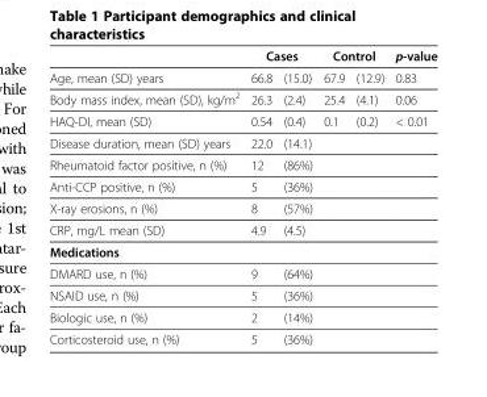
<table><thead><tr><td rowspan="2">Age, mean (SD) years</td><td colspan="2">Cases</td><td colspan="2">Control</td><td rowspan="2">p-value 0.83</td></tr><tr><td>66.8</td><td>(15.0)</td><td>67.9</td><td>(12.9)</td></tr></thead><tbody><tr><td>Body mass index, mean (SD), kg/m<sup>2</sup></td><td>26.3</td><td>(2.4)</td><td>25.4</td><td>(4.1)</td><td>0.06</td></tr><tr><td>HAQ-DI, mean (SD)</td><td>0.54</td><td>(0.4)</td><td>0.1</td><td>(0.2)</td><td>&lt; 0.01</td></tr><tr><td>Disease duration, mean (SD) years</td><td>22.0</td><td>(14.1)</td><td colspan="2"></td><td></td></tr><tr><td>Rheumatoid factor positive, n (%)</td><td>12</td><td>(86%)</td><td colspan="2"></td><td></td></tr><tr><td>Anti-CCP positive, n (%)</td><td>5</td><td>(36%)</td><td colspan="2"></td><td></td></tr><tr><td>X-ray erosions, n (%)</td><td>8</td><td>(57%)</td><td colspan="2"></td><td></td></tr><tr><td>CRP, mg/L mean (SD)</td><td>4.9</td><td>(4.5)</td><td colspan="2"></td><td></td></tr><tr><td colspan="6">Medications</td></tr><tr><td>DMARD use, n (%)</td><td>9</td><td>(64%)</td><td colspan="2"></td><td></td></tr><tr><td>NSAID use, n (%)</td><td>5</td><td>(36%)</td><td colspan="2"></td><td></td></tr><tr><td>Biologic use, n (%)</td><td>2</td><td>(14%)</td><td colspan="2"></td><td></td></tr><tr><td>Corticosteroid use, n (%)</td><td>5</td><td>(36%)</td><td colspan="2"></td><td></td></tr></tbody></table>